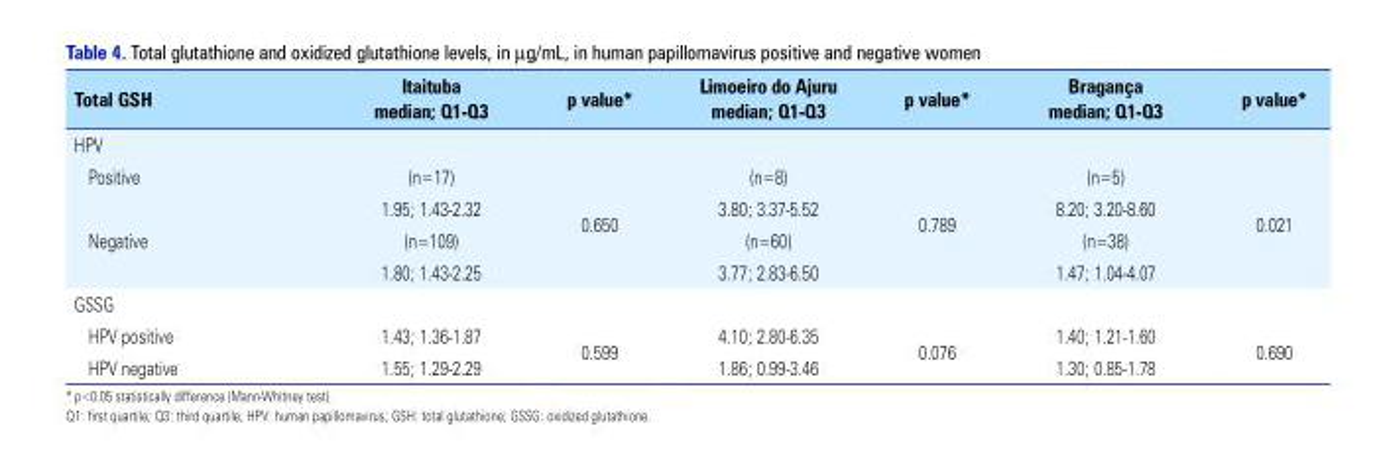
<table><thead><tr><td rowspan="2">Total GSH</td><td rowspan="2">Itaituba median; Q1-Q3</td><td rowspan="2">p value*</td><td rowspan="2">Limoeiro do Ajuru median; Q1-Q3</td><td rowspan="2">p value*</td><td rowspan="2">Bragança median; Q1-Q3</td><td rowspan="2">p value*</td></tr><tr></tr></thead><tbody><tr><td colspan="7">HPV</td></tr><tr><td rowspan="2">Positive</td><td>(n=17)</td><td rowspan="4">0.650</td><td>(n=8)</td><td rowspan="4">0.789</td><td>(n=5)</td><td rowspan="4">0.021</td></tr><tr><td>1.95; 1.43-2.32</td><td>3.80; 3.37-5.52</td><td>8.20; 3.20-8.60</td></tr><tr><td rowspan="2">Negative</td><td>(n=109)</td><td>(n=60)</td><td>(n=38)</td></tr><tr><td>1.80; 1.43-2.25</td><td>3.77; 2.83-6.50</td><td>1.47; 1.04-4.07</td></tr><tr><td colspan="7">GSSG</td></tr><tr><td>HPV positive</td><td>1.43; 1.36-1.87</td><td rowspan="2">0.599</td><td>4.10; 2.80-6.35</td><td rowspan="2">0.076</td><td>1.40; 1.21-1.60</td><td rowspan="2">0.690</td></tr><tr><td>HPV negative</td><td>1.55; 1.29-2.29</td><td>1.86; 0.99-3.46</td><td>1.30; 0.85-1.78</td></tr></tbody></table>